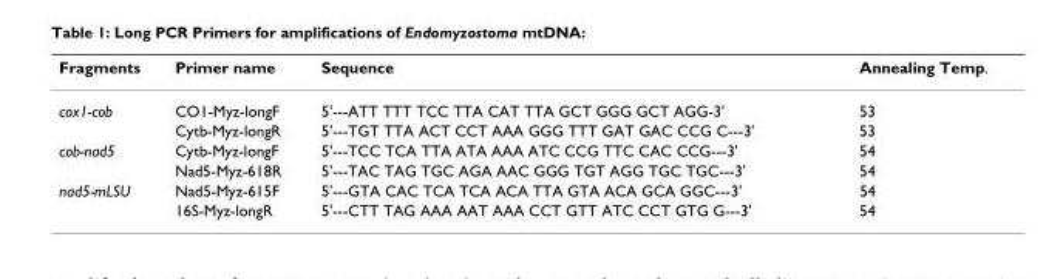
<table><thead><tr><td>Fragments</td><td>Primer name</td><td>Sequence</td><td>Annealing Temp.</td></tr></thead><tbody><tr><td rowspan="2">cox1-cob</td><td>CO1-Myz-longF</td><td>5&#x27;---ATT TTT TCC TTA CAT TTA GCT GGG GCT AGG-3&#x27;</td><td>53</td></tr><tr><td>Cytb-Myz-longR</td><td>5&#x27;---TGT TTA ACT CCT AAA GGG TTT GAT GAC CCG C---3&#x27;</td><td>53</td></tr><tr><td rowspan="2">cob-nad5</td><td>Cytb-Myz-longF</td><td>5&#x27;---TCC TCA TTA ATA AAA ATC CCG TTC CAC CCG---3&#x27;</td><td>54</td></tr><tr><td>Nad5-Myz-618R</td><td>5&#x27;---TAC TAG TGC AGA AAC GGG TGT AGG TGC TGC---3&#x27;</td><td>54</td></tr><tr><td rowspan="2">nad5-mLSU</td><td>Nad5-Myz-615F</td><td>5&#x27;---GTA CAC TCA TCA ACA TTA GTA ACA GCA GGC---3&#x27;</td><td>54</td></tr><tr><td>16S-Myz-longR</td><td>5&#x27;---CTT TAG AAA AAT AAA CCT GTT ATC CCT GTG G---3&#x27;</td><td>54</td></tr></tbody></table>